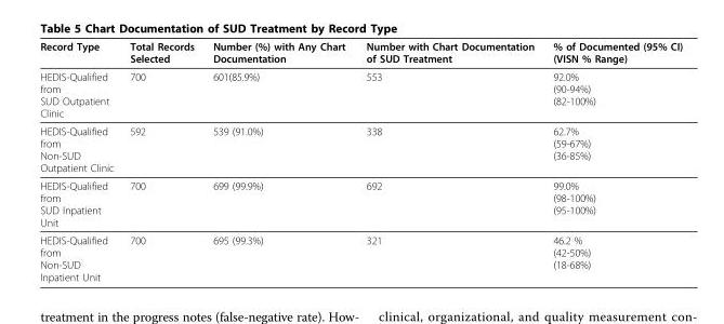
<table><thead><tr><td>Record Type</td><td>Total Records Selected</td><td>Number (%) with Any Chart Documentation</td><td>Number with Chart Documentation of SUD Treatment</td><td>% of Documented (95% CI) (VISN % Range)</td></tr></thead><tbody><tr><td>HEDIS-Qualified from SUD Outpatient Clinic</td><td>700</td><td>601(85.9%)</td><td>553</td><td>92.0% (90-94%) (82-100%)</td></tr><tr><td>HEDIS-Qualified from Non-SUD Outpatient Clinic</td><td>592</td><td>539 (91.0%)</td><td>338</td><td>62.7% (59-67%) (36-85%)</td></tr><tr><td>HEDIS-Qualified from SUD Inpatient Unit</td><td>700</td><td>699 (99.9%)</td><td>692</td><td>99.0% (98-100%) (95-100%)</td></tr><tr><td>HEDIS-Qualified from Non-SUD Inpatient Unit</td><td>700</td><td>695 (99.3%)</td><td>321</td><td>46.2 % (42-50%) (18-68%)</td></tr></tbody></table>